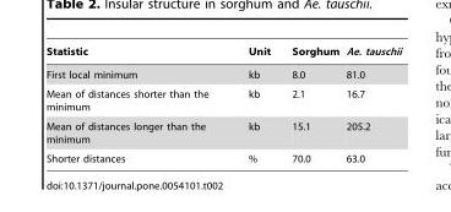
<table><thead><tr><td>Statistic</td><td>Unit</td><td>Sorghum</td><td>Ae. tauschii</td></tr></thead><tbody><tr><td>First local minimum</td><td>kb</td><td>8.0</td><td>81.0</td></tr><tr><td>Mean of distances shorter than the minimum</td><td>kb</td><td>2.1</td><td>16.7</td></tr><tr><td>Mean of distances longer than the minimum</td><td>kb</td><td>15.1</td><td>205.2</td></tr><tr><td>Shorter distances</td><td>%</td><td>70.0</td><td>63.0</td></tr></tbody></table>